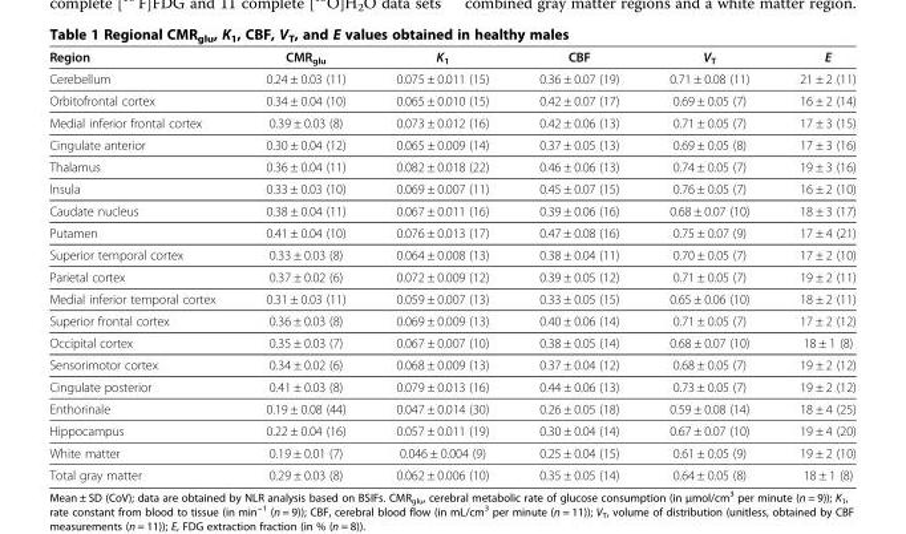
<table><thead><tr><td>Region</td><td>CMR<sub>glu</sub></td><td>K<sub>1</sub></td><td>CBF</td><td>V<sub>T</sub></td><td>E</td></tr></thead><tbody><tr><td>Cerebellum</td><td>0.24 ± 0.03 (11)</td><td>0.075 ± 0.011 (15)</td><td>0.36 ± 0.07 (19)</td><td>0.71 ± 0.08 (11)</td><td>21 ± 2 (11)</td></tr><tr><td>Orbitofrontal cortex</td><td>0.34 ± 0.04 (10)</td><td>0.065 ± 0.010 (15)</td><td>0.42 ± 0.07 (17)</td><td>0.69 ± 0.05 (7)</td><td>16 ± 2 (14)</td></tr><tr><td>Medial inferior frontal cortex</td><td>0.39 ± 0.03 (8)</td><td>0.073 ± 0.012 (16)</td><td>0.42 ± 0.06 (13)</td><td>0.71 ± 0.05 (7)</td><td>17 ± 3 (15)</td></tr><tr><td>Cingulate anterior</td><td>0.30 ± 0.04 (12)</td><td>0.065 ± 0.009 (14)</td><td>0.37 ± 0.05 (13)</td><td>0.69 ± 0.05 (8)</td><td>17 ± 3 (16)</td></tr><tr><td>Thalamus</td><td>0.36 ± 0.04 (11)</td><td>0.082 ± 0.018 (22)</td><td>0.46 ± 0.06 (13)</td><td>0.74 ± 0.05 (7)</td><td>19 ± 3 (16)</td></tr><tr><td>Insula</td><td>0.33 ± 0.03 (10)</td><td>0.069 ± 0.007 (11)</td><td>0.45 ± 0.07 (15)</td><td>0.76 ± 0.05 (7)</td><td>16 ± 2 (10)</td></tr><tr><td>Caudate nucleus</td><td>0.38 ± 0.04 (11)</td><td>0.067 ± 0.011 (16)</td><td>0.39 ± 0.06 (16)</td><td>0.68 ± 0.07 (10)</td><td>18 ± 3 (17)</td></tr><tr><td>Putamen</td><td>0.41 ± 0.04 (10)</td><td>0.076 ± 0.013 (17)</td><td>0.47 ± 0.08 (16)</td><td>0.75 ± 0.07 (9)</td><td>17 ± 4 (21)</td></tr><tr><td>Superior temporal cortex</td><td>0.33 ± 0.03 (8)</td><td>0.064 ± 0.008 (13)</td><td>0.38 ± 0.04 (11)</td><td>0.70 ± 0.05 (7)</td><td>17 ± 2 (10)</td></tr><tr><td>Parietal cortex</td><td>0.37 ± 0.02 (6)</td><td>0.072 ± 0.009 (12)</td><td>0.39 ± 0.05 (12)</td><td>0.71 ± 0.05 (7)</td><td>19 ± 2 (11)</td></tr><tr><td>Medial inferior temporal cortex</td><td>0.31 ± 0.03 (11)</td><td>0.059 ± 0.007 (13)</td><td>0.33 ± 0.05 (15)</td><td>0.65 ± 0.06 (10)</td><td>18 ± 2 (11)</td></tr><tr><td>Superior frontal cortex</td><td>0.36 ± 0.03 (8)</td><td>0.069 ± 0.009 (13)</td><td>0.40 ± 0.06 (14)</td><td>0.71 ± 0.05 (7)</td><td>17 ± 2 (12)</td></tr><tr><td>Occipital cortex</td><td>0.35 ± 0.03 (7)</td><td>0.067 ± 0.007 (10)</td><td>0.38 ± 0.05 (14)</td><td>0.68 ± 0.07 (10)</td><td>18 ± 1 (8)</td></tr><tr><td>Sensorimotor cortex</td><td>0.34 ± 0.02 (6)</td><td>0.068 ± 0.009 (13)</td><td>0.37 ± 0.04 (12)</td><td>0.68 ± 0.05 (7)</td><td>19 ± 2 (12)</td></tr><tr><td>Cingulate posterior</td><td>0.41 ± 0.03 (8)</td><td>0.079 ± 0.013 (16)</td><td>0.44 ± 0.06 (13)</td><td>0.73 ± 0.05 (7)</td><td>19 ± 2 (12)</td></tr><tr><td>Enthorinale</td><td>0.19 ± 0.08 (44)</td><td>0.047 ± 0.014 (30)</td><td>0.26 ± 0.05 (18)</td><td>0.59 ± 0.08 (14)</td><td>18 ± 4 (25)</td></tr><tr><td>Hippocampus</td><td>0.22 ± 0.04 (16)</td><td>0.057 ± 0.011 (19)</td><td>0.30 ± 0.04 (14)</td><td>0.67 ± 0.07 (10)</td><td>19 ± 4 (20)</td></tr><tr><td>White matter</td><td>0.19 ± 0.01 (7)</td><td>0.046 ± 0.004 (9)</td><td>0.25 ± 0.04 (15)</td><td>0.61 ± 0.05 (9)</td><td>19 ± 2 (10)</td></tr><tr><td>Total gray matter</td><td>0.29 ± 0.03 (8)</td><td>0.062 ± 0.006 (10)</td><td>0.35 ± 0.05 (14)</td><td>0.64 ± 0.05 (8)</td><td>18 ± 1 (8)</td></tr></tbody></table>